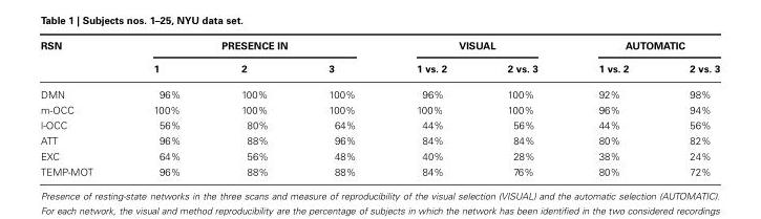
<table><thead><tr><td rowspan="2">RSN</td><td colspan="3">PRESENCE IN</td><td colspan="2">VISUAL</td><td colspan="2">AUTOMATIC</td></tr><tr><td>1</td><td>2</td><td>3</td><td>1 vs. 2</td><td>2 vs. 3</td><td>1 vs. 2</td><td>2 vs. 3</td></tr></thead><tbody><tr><td>DMN</td><td>96%</td><td>100%</td><td>100%</td><td>96%</td><td>100%</td><td>92%</td><td>98%</td></tr><tr><td>m-OCC</td><td>100%</td><td>100%</td><td>100%</td><td>100%</td><td>100%</td><td>96%</td><td>94%</td></tr><tr><td>l-OCC</td><td>56%</td><td>80%</td><td>64%</td><td>44%</td><td>56%</td><td>44%</td><td>56%</td></tr><tr><td>ATT</td><td>96%</td><td>88%</td><td>96%</td><td>84%</td><td>84%</td><td>80%</td><td>82%</td></tr><tr><td>EXC</td><td>64%</td><td>56%</td><td>48%</td><td>40%</td><td>28%</td><td>38%</td><td>24%</td></tr><tr><td>TEMP-MOT</td><td>96%</td><td>88%</td><td>88%</td><td>84%</td><td>76%</td><td>80%</td><td>72%</td></tr></tbody></table>